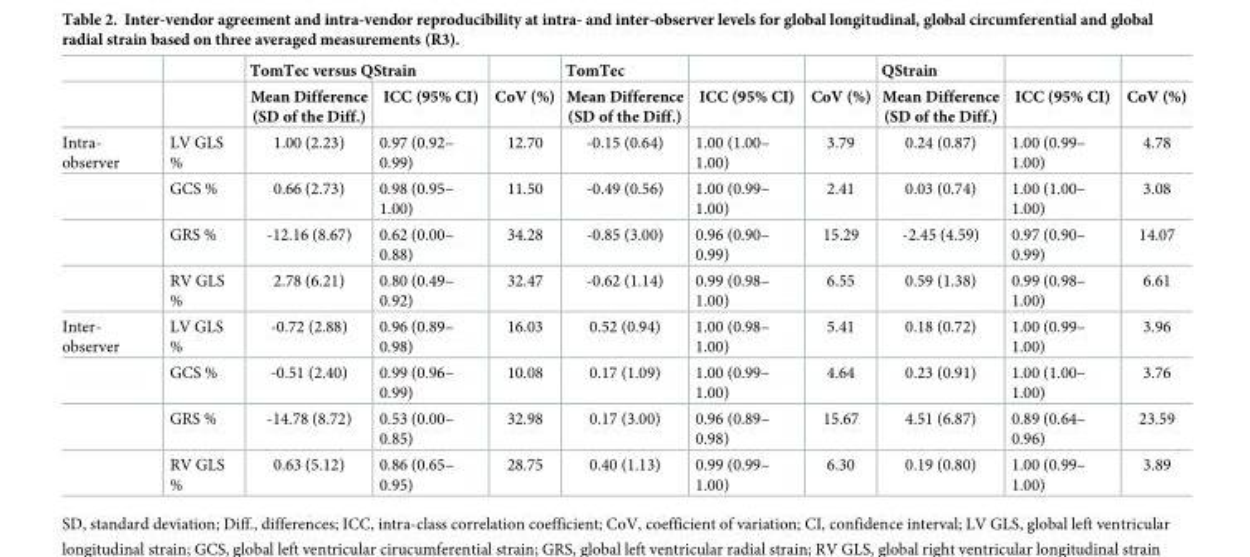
<table><thead><tr><td rowspan="2"></td><td rowspan="2"></td><td colspan="2">TomTec versus QStrain</td><td rowspan="2">CoV (%)</td><td rowspan="2">TomTec Mean Difference (SD of the Diff.)</td><td rowspan="2">ICC (95% CI)</td><td rowspan="2">CoV (%)</td><td rowspan="2">QStrain Mean Difference (SD of the Diff.)</td><td rowspan="2">ICC (95% CI)</td><td rowspan="2">CoV (%)</td></tr><tr><td>Mean Difference (SD of the Diff.)</td><td>ICC (95% CI)</td></tr></thead><tbody><tr><td rowspan="4">Intra- observer</td><td>LV GLS %</td><td>1.00 (2.23)</td><td>0.97 (0.92– 0.99)</td><td>12.70</td><td>-0.15 (0.64)</td><td>1.00 (1.00– 1.00)</td><td>3.79</td><td>0.24 (0.87)</td><td>1.00 (0.99– 1.00)</td><td>4.78</td></tr><tr><td>GCS %</td><td>0.66 (2.73)</td><td>0.98 (0.95– 1.00)</td><td>11.50</td><td>-0.49 (0.56)</td><td>1.00 (0.99– 1.00)</td><td>2.41</td><td>0.03 (0.74)</td><td>1.00 (1.00– 1.00)</td><td>3.08</td></tr><tr><td>GRS %</td><td>-12.16 (8.67)</td><td>0.62 (0.00– 0.88)</td><td>34.28</td><td>-0.85 (3.00)</td><td>0.96 (0.90– 0.99)</td><td>15.29</td><td>-2.45 (4.59)</td><td>0.97 (0.90– 0.99)</td><td>14.07</td></tr><tr><td>RV GLS %</td><td>2.78 (6.21)</td><td>0.80 (0.49– 0.92)</td><td>32.47</td><td>-0.62 (1.14)</td><td>0.99 (0.98– 1.00)</td><td>6.55</td><td>0.59 (1.38)</td><td>0.99 (0.98– 1.00)</td><td>6.61</td></tr><tr><td rowspan="4">Inter- observer</td><td>LV GLS %</td><td>-0.72 (2.88)</td><td>0.96 (0.89– 0.98)</td><td>16.03</td><td>0.52 (0.94)</td><td>1.00 (0.98– 1.00)</td><td>5.41</td><td>0.18 (0.72)</td><td>1.00 (0.99– 1.00)</td><td>3.96</td></tr><tr><td>GCS %</td><td>-0.51 (2.40)</td><td>0.99 (0.96– 0.99)</td><td>10.08</td><td>0.17 (1.09)</td><td>1.00 (0.99– 1.00)</td><td>4.64</td><td>0.23 (0.91)</td><td>1.00 (1.00– 1.00)</td><td>3.76</td></tr><tr><td>GRS %</td><td>-14.78 (8.72)</td><td>0.53 (0.00– 0.85)</td><td>32.98</td><td>0.17 (3.00)</td><td>0.96 (0.89– 0.98)</td><td>15.67</td><td>4.51 (6.87)</td><td>0.89 (0.64– 0.96)</td><td>23.59</td></tr><tr><td>RV GLS %</td><td>0.63 (5.12)</td><td>0.86 (0.65– 0.95)</td><td>28.75</td><td>0.40 (1.13)</td><td>0.99 (0.99– 1.00)</td><td>6.30</td><td>0.19 (0.80)</td><td>1.00 (0.99– 1.00)</td><td>3.89</td></tr></tbody></table>